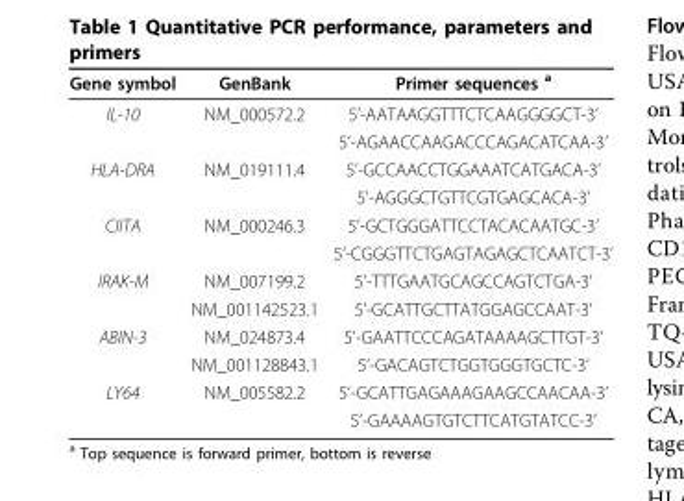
<table><thead><tr><td>Gene symbol</td><td>GenBank</td><td>Primer sequences <sup>a</sup></td></tr></thead><tbody><tr><td rowspan="2">IL-10</td><td>NM_000572.2</td><td>5’-AATAAGGTTTCTCAAGGGGCT-3’</td></tr><tr><td></td><td>5’-AGAACCAAGACCCAGACATCAA-3’</td></tr><tr><td rowspan="2">HLA-DRA</td><td>NM_019111.4</td><td>5’-GCCAACCTGGAAATCATGACA-3’</td></tr><tr><td></td><td>5’-AGGGCTGTTCGTGAGCACA-3’</td></tr><tr><td rowspan="2">CIITA</td><td>NM_000246.3</td><td>5’-GCTGGGATTCCTACACAATGC-3’</td></tr><tr><td></td><td>5’-CGGGTTCTGAGTAGAGCTCAATCT-3’</td></tr><tr><td rowspan="2">IRAK-M</td><td>NM_007199.2</td><td>5’-TTTGAATGCAGCCAGTCTGA-3’</td></tr><tr><td>NM_001142523.1</td><td>5’-GCATTGCTTATGGAGCCAAT-3’</td></tr><tr><td rowspan="2">ABIN-3</td><td>NM_024873.4</td><td>5’-GAATTCCCAGATAAAAGCTTGT-3’</td></tr><tr><td>NM_001128843.1</td><td>5’-GACAGTCTGGTGGGTGCTC-3’</td></tr><tr><td rowspan="2">LY64</td><td>NM_005582.2</td><td>5’-GCATTGAGAAAGAAGCCAACAA-3’</td></tr><tr><td></td><td>5’-GAAAAGTGTCTTCATGTATCC-3’</td></tr></tbody></table>